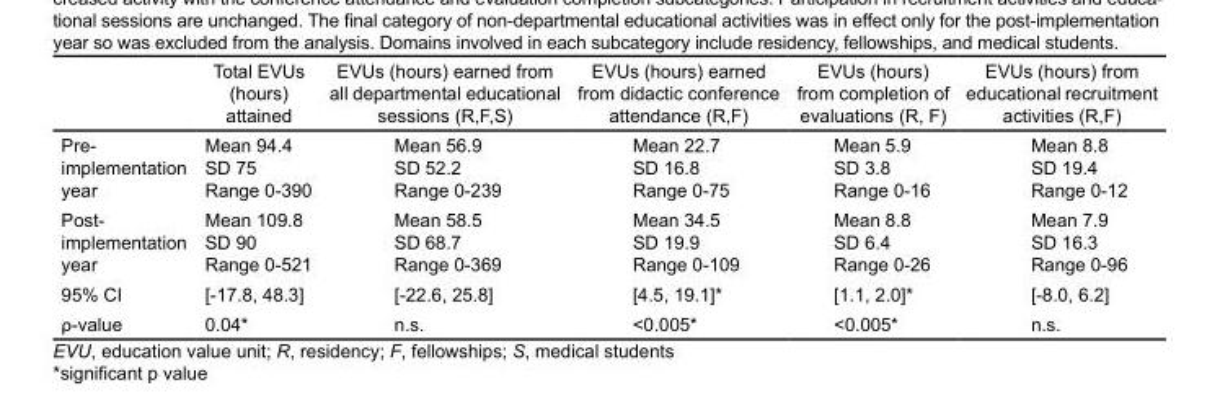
<table><thead><tr><td></td><td>Total EVUs (hours) attained</td><td>EVUs (hours) earned from all departmental educational sessions (R,F,S)</td><td>EVUs (hours) earned from didactic conference attendance (R,F)</td><td>EVUs (hours) from completion of evaluations (R, F)</td><td>EVUs (hours) from educational recruitment activities (R,F)</td></tr></thead><tbody><tr><td>Pre- implementation year</td><td>Mean 94.4 SD 75 Range 0-390</td><td>Mean 56.9 SD 52.2 Range 0-239</td><td>Mean 22.7 SD 16.8 Range 0-75</td><td>Mean 5.9 SD 3.8 Range 0-16</td><td>Mean 8.8 SD 19.4 Range 0-12</td></tr><tr><td>Post- implementation year</td><td>Mean 109.8 SD 90 Range 0-521</td><td>Mean 58.5 SD 68.7 Range 0-369</td><td>Mean 34.5 SD 19.9 Range 0-109</td><td>Mean 8.8 SD 6.4 Range 0-26</td><td>Mean 7.9 SD 16.3 Range 0-96</td></tr><tr><td>95% CI</td><td>[-17.8, 48.3]</td><td>[-22.6, 25.8]</td><td>[4.5, 19.1]*</td><td>[1.1, 2.0]*</td><td>[-8.0, 6.2]</td></tr><tr><td>ρ-value</td><td>0.04*</td><td>n.s.</td><td>&lt;0.005*</td><td>&lt;0.005*</td><td>n.s.</td></tr></tbody></table>